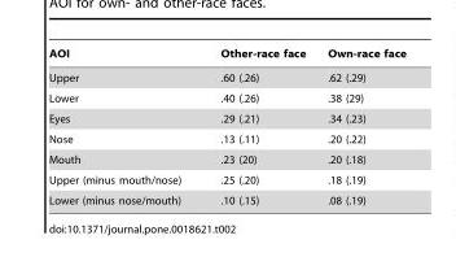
<table><thead><tr><td>AOI</td><td>Other-race face</td><td>Own-race face</td></tr></thead><tbody><tr><td>Upper</td><td>.60 (.26)</td><td>.62 (.29)</td></tr><tr><td>Lower</td><td>.40 (.26)</td><td>.38 (29)</td></tr><tr><td>Eyes</td><td>.29 (.21)</td><td>.34 (.23)</td></tr><tr><td>Nose</td><td>.13 (.11)</td><td>.20 (.22)</td></tr><tr><td>Mouth</td><td>.23 (20)</td><td>.20 (.18)</td></tr><tr><td>Upper (minus mouth/nose)</td><td>.25 (.20)</td><td>.18 (.19)</td></tr><tr><td>Lower (minus nose/mouth)</td><td>.10 (.15)</td><td>.08 (.19)</td></tr></tbody></table>